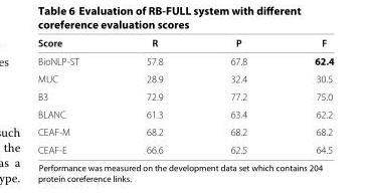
<table><thead><tr><td>Score</td><td>R</td><td>P</td><td>F</td></tr></thead><tbody><tr><td>BioNLP-ST</td><td>57.8</td><td>67.8</td><td>62.4</td></tr><tr><td>MUC</td><td>28.9</td><td>32.4</td><td>30.5</td></tr><tr><td>B3</td><td>72.9</td><td>77.2</td><td>75.0</td></tr><tr><td>BLANC</td><td>61.3</td><td>63.4</td><td>62.2</td></tr><tr><td>CEAF-M</td><td>68.2</td><td>68.2</td><td>68.2</td></tr><tr><td>CEAF-E</td><td>66.6</td><td>62.5</td><td>64.5</td></tr></tbody></table>